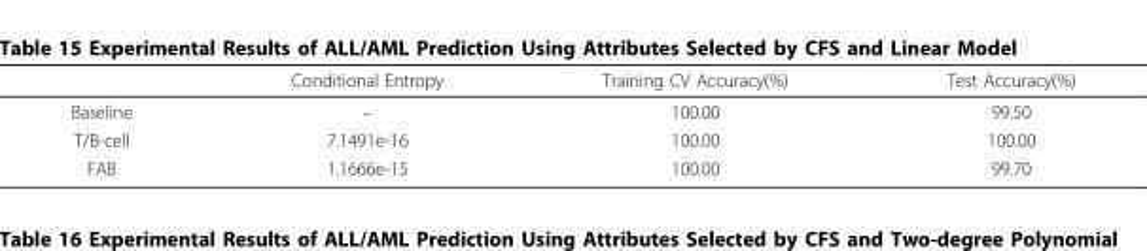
<table><thead><tr><td></td><td>Conditional Entropy</td><td>Training CV Accuracy(%)</td><td>Test Accuracy(%)</td></tr></thead><tbody><tr><td>Baseline</td><td>–</td><td>100.00</td><td>99.50</td></tr><tr><td>T/B-cell</td><td>7.1491e-16</td><td>100.00</td><td>100.00</td></tr><tr><td>FAB</td><td>1.1666e-15</td><td>100.00</td><td>99.70</td></tr></tbody></table>